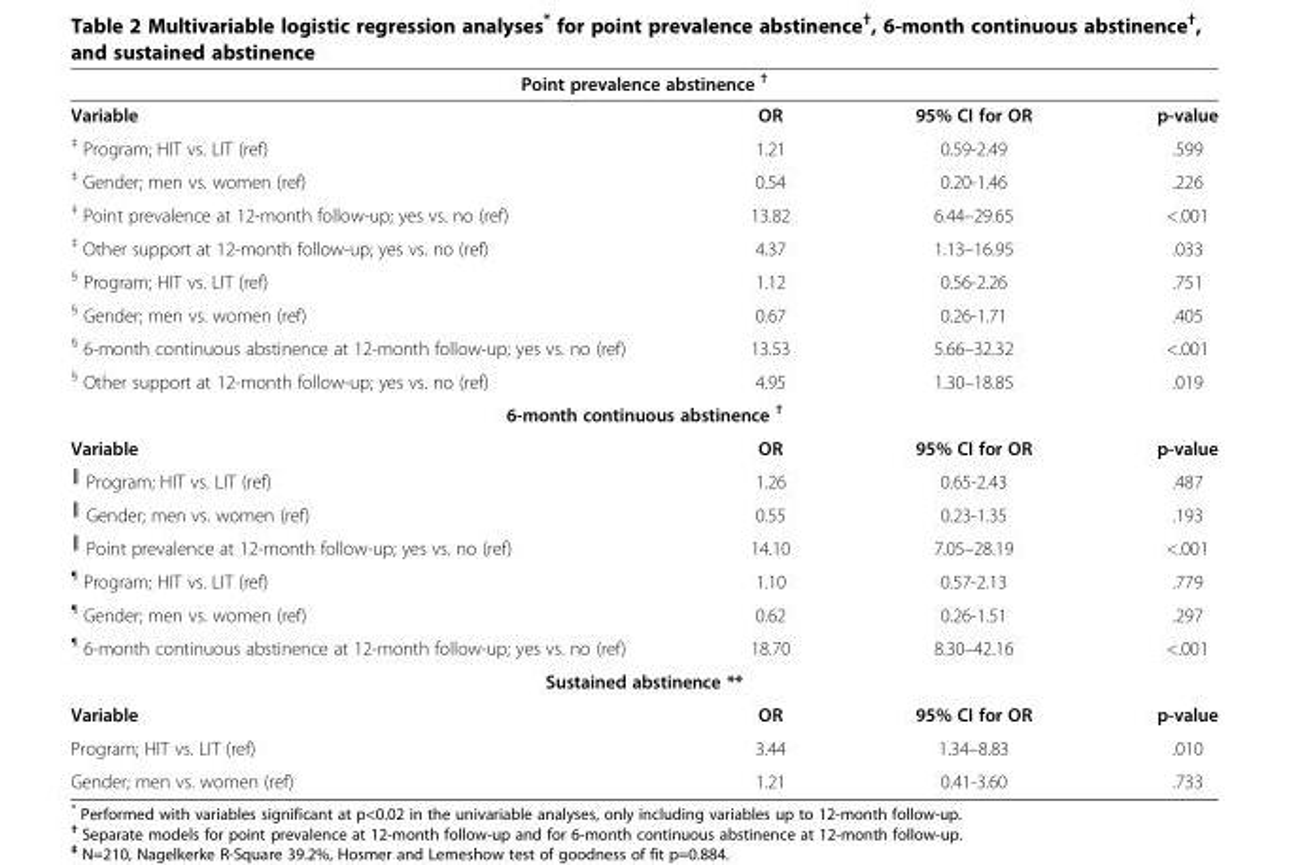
<table><thead><tr><td colspan="4">Point prevalence abstinence <sup>†</sup></td></tr><tr><td>Variable</td><td>OR</td><td>95% CI for OR</td><td>p-value</td></tr></thead><tbody><tr><td><sup>‡</sup> Program; HIT vs. LIT (ref)</td><td>1.21</td><td>0.59-2.49</td><td>.599</td></tr><tr><td><sup>‡</sup> Gender; men vs. women (ref)</td><td>0.54</td><td>0.20-1.46</td><td>.226</td></tr><tr><td><sup>‡</sup> Point prevalence at 12-month follow-up; yes vs. no (ref)</td><td>13.82</td><td>6.44–29.65</td><td>&lt;.001</td></tr><tr><td><sup>‡</sup> Other support at 12-month follow-up; yes vs. no (ref)</td><td>4.37</td><td>1.13–16.95</td><td>.033</td></tr><tr><td><sup>§</sup> Program; HIT vs. LIT (ref)</td><td>1.12</td><td>0.56-2.26</td><td>.751</td></tr><tr><td><sup>§</sup> Gender; men vs. women (ref)</td><td>0.67</td><td>0.26-1.71</td><td>.405</td></tr><tr><td><sup>§</sup> 6-month continuous abstinence at 12-month follow-up; yes vs. no (ref)</td><td>13.53</td><td>5.66–32.32</td><td>&lt;.001</td></tr><tr><td><sup>§</sup> Other support at 12-month follow-up; yes vs. no (ref)</td><td>4.95</td><td>1.30–18.85</td><td>.019</td></tr><tr><td colspan="4">6-month continuous abstinence <sup>†</sup></td></tr><tr><td>Variable</td><td>OR</td><td>95% CI for OR</td><td>p-value</td></tr><tr><td><sup>║</sup> Program; HIT vs. LIT (ref)</td><td>1.26</td><td>0.65-2.43</td><td>.487</td></tr><tr><td><sup>║</sup> Gender; men vs. women (ref)</td><td>0.55</td><td>0.23-1.35</td><td>.193</td></tr><tr><td><sup>║</sup> Point prevalence at 12-month follow-up; yes vs. no (ref)</td><td>14.10</td><td>7.05–28.19</td><td>&lt;.001</td></tr><tr><td><sup>¶</sup> Program; HIT vs. LIT (ref)</td><td>1.10</td><td>0.57-2.13</td><td>.779</td></tr><tr><td><sup>¶</sup> Gender; men vs. women (ref)</td><td>0.62</td><td>0.26-1.51</td><td>.297</td></tr><tr><td><sup>¶</sup> 6-month continuous abstinence at 12-month follow-up; yes vs. no (ref)</td><td>18.70</td><td>8.30–42.16</td><td>&lt;.001</td></tr><tr><td colspan="4">Sustained abstinence **</td></tr><tr><td>Variable</td><td>OR</td><td>95% CI for OR</td><td>p-value</td></tr><tr><td>Program; HIT vs. LIT (ref)</td><td>3.44</td><td>1.34–8.83</td><td>.010</td></tr><tr><td>Gender; men vs. women (ref)</td><td>1.21</td><td>0.41-3.60</td><td>.733</td></tr></tbody></table>